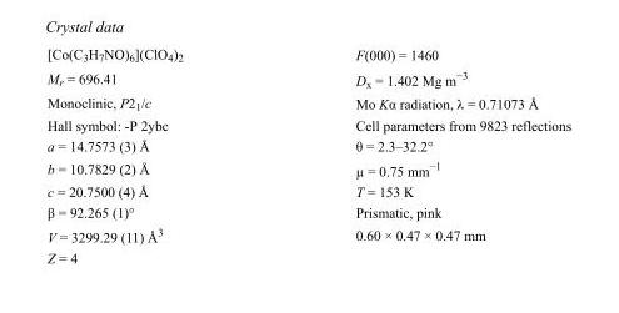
<table><tbody><tr><td>[Co(C<sub>3</sub>H<sub>7</sub>NO)<sub>6</sub>](ClO<sub>4</sub>)<sub>2</sub></td><td>F(000) = 1460</td></tr><tr><td>M<sub>r</sub> = 696.41</td><td>D<sub>x</sub> = 1.402 Mg m<sup>−3</sup></td></tr><tr><td>Monoclinic, P2<sub>1</sub>/c</td><td>Mo Kα radiation, λ = 0.71073 Å</td></tr><tr><td>Hall symbol: -P 2ybc</td><td>Cell parameters from 9823 reflections</td></tr><tr><td>a = 14.7573 (3) Å</td><td>θ = 2.3–32.2°</td></tr><tr><td>b = 10.7829 (2) Å</td><td>µ = 0.75 mm<sup>−1</sup></td></tr><tr><td>c = 20.7500 (4) Å</td><td>T = 153 K</td></tr><tr><td>β = 92.265 (1)°</td><td>Prismatic, pink</td></tr><tr><td>V = 3299.29 (11) Å<sup>3</sup></td><td>0.60 × 0.47 × 0.47 mm</td></tr><tr><td>Z = 4</td><td></td></tr></tbody></table>